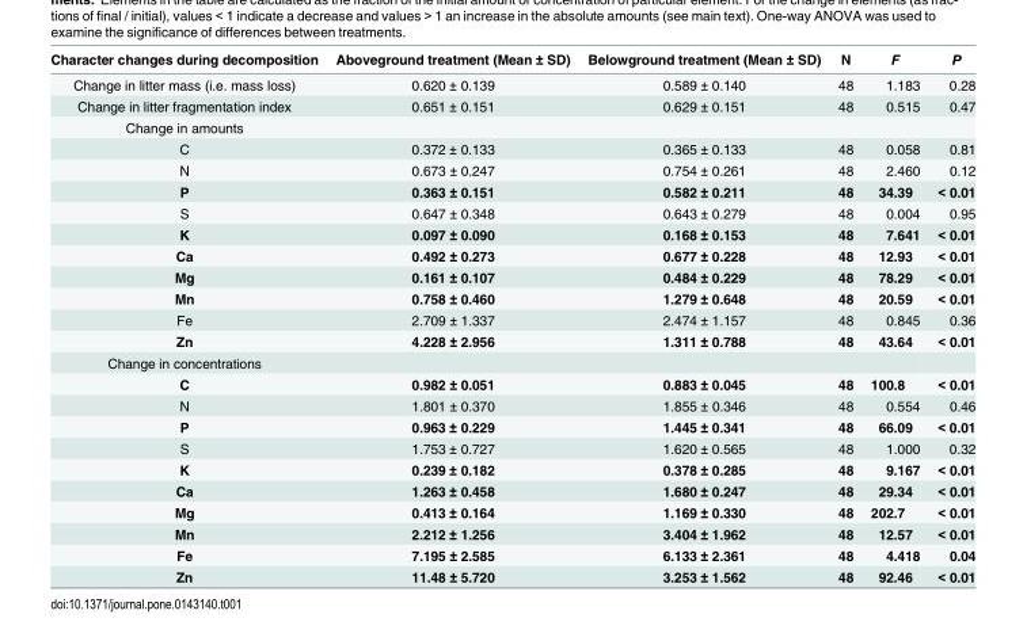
<table><thead><tr><td>Character changes during decomposition</td><td>Aboveground treatment (Mean ± SD)</td><td>Belowground treatment (Mean ± SD)</td><td>N</td><td>F</td><td>P</td></tr></thead><tbody><tr><td>Change in litter mass (i.e. mass loss)</td><td>0.620 ± 0.139</td><td>0.589 ± 0.140</td><td>48</td><td>1.183</td><td>0.28</td></tr><tr><td>Change in litter fragmentation index</td><td>0.651 ± 0.151</td><td>0.629 ± 0.151</td><td>48</td><td>0.515</td><td>0.47</td></tr><tr><td colspan="6">Change in amounts</td></tr><tr><td>C</td><td>0.372 ± 0.133</td><td>0.365 ± 0.133</td><td>48</td><td>0.058</td><td>0.81</td></tr><tr><td>N</td><td>0.673 ± 0.247</td><td>0.754 ± 0.261</td><td>48</td><td>2.460</td><td>0.12</td></tr><tr><td>P</td><td>0.363 ± 0.151</td><td>0.582 ± 0.211</td><td>48</td><td>34.39</td><td>&lt; 0.01</td></tr><tr><td>S</td><td>0.647 ± 0.348</td><td>0.643 ± 0.279</td><td>48</td><td>0.004</td><td>0.95</td></tr><tr><td>K</td><td>0.097 ± 0.090</td><td>0.168 ± 0.153</td><td>48</td><td>7.641</td><td>&lt; 0.01</td></tr><tr><td>Ca</td><td>0.492 ± 0.273</td><td>0.677 ± 0.228</td><td>48</td><td>12.93</td><td>&lt; 0.01</td></tr><tr><td>Mg</td><td>0.161 ± 0.107</td><td>0.484 ± 0.229</td><td>48</td><td>78.29</td><td>&lt; 0.01</td></tr><tr><td>Mn</td><td>0.758 ± 0.460</td><td>1.279 ± 0.648</td><td>48</td><td>20.59</td><td>&lt; 0.01</td></tr><tr><td>Fe</td><td>2.709 ± 1.337</td><td>2.474 ± 1.157</td><td>48</td><td>0.845</td><td>0.36</td></tr><tr><td>Zn</td><td>4.228 ± 2.956</td><td>1.311 ± 0.788</td><td>48</td><td>43.64</td><td>&lt; 0.01</td></tr><tr><td colspan="6">Change in concentrations</td></tr><tr><td>C</td><td>0.982 ± 0.051</td><td>0.883 ± 0.045</td><td>48</td><td>100.8</td><td>&lt; 0.01</td></tr><tr><td>N</td><td>1.801 ± 0.370</td><td>1.855 ± 0.346</td><td>48</td><td>0.554</td><td>0.46</td></tr><tr><td>P</td><td>0.963 ± 0.229</td><td>1.445 ± 0.341</td><td>48</td><td>66.09</td><td>&lt; 0.01</td></tr><tr><td>S</td><td>1.753 ± 0.727</td><td>1.620 ± 0.565</td><td>48</td><td>1.000</td><td>0.32</td></tr><tr><td>K</td><td>0.239 ± 0.182</td><td>0.378 ± 0.285</td><td>48</td><td>9.167</td><td>&lt; 0.01</td></tr><tr><td>Ca</td><td>1.263 ± 0.458</td><td>1.680 ± 0.247</td><td>48</td><td>29.34</td><td>&lt; 0.01</td></tr><tr><td>Mg</td><td>0.413 ± 0.164</td><td>1.169 ± 0.330</td><td>48</td><td>202.7</td><td>&lt; 0.01</td></tr><tr><td>Mn</td><td>2.212 ± 1.256</td><td>3.404 ± 1.962</td><td>48</td><td>12.57</td><td>&lt; 0.01</td></tr><tr><td>Fe</td><td>7.195 ± 2.585</td><td>6.133 ± 2.361</td><td>48</td><td>4.418</td><td>0.04</td></tr><tr><td>Zn</td><td>11.48 ± 5.720</td><td>3.253 ± 1.562</td><td>48</td><td>92.46</td><td>&lt; 0.01</td></tr></tbody></table>